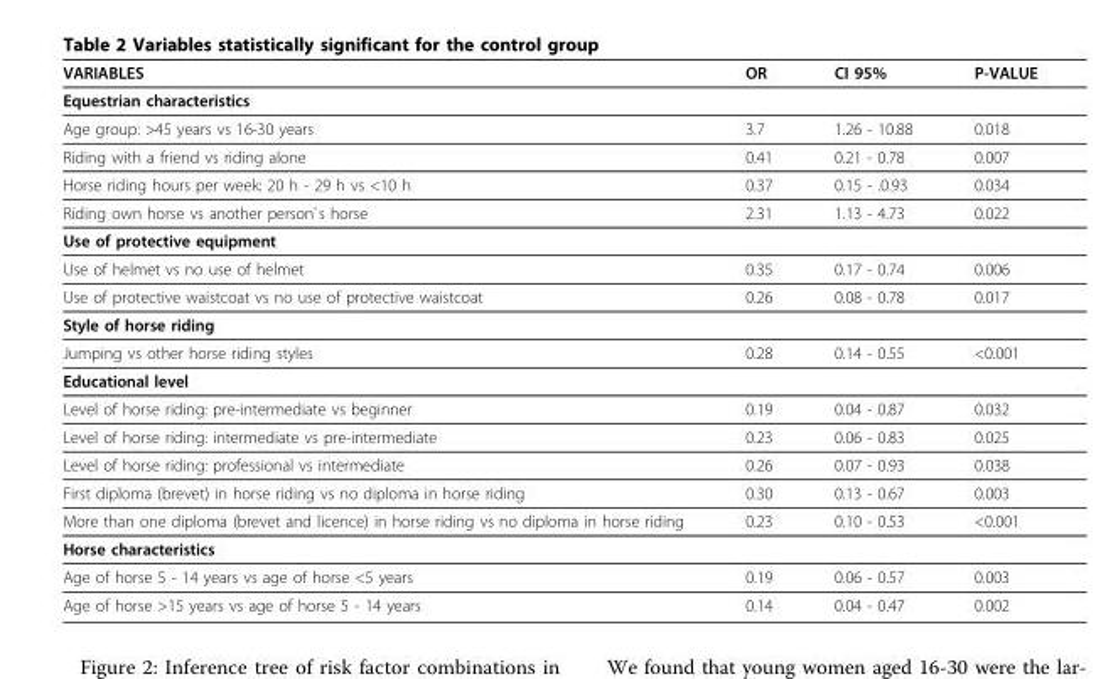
<table><thead><tr><td>VARIABLES</td><td>OR</td><td>CI 95%</td><td>P-VALUE</td></tr></thead><tbody><tr><td colspan="4">Equestrian characteristics</td></tr><tr><td>Age group: &gt;45 years vs 16-30 years</td><td>3.7</td><td>1.26 - 10.88</td><td>0.018</td></tr><tr><td>Riding with a friend vs riding alone</td><td>0.41</td><td>0.21 - 0.78</td><td>0.007</td></tr><tr><td>Horse riding hours per week: 20 h - 29 h vs &lt;10 h</td><td>0.37</td><td>0.15 - .0.93</td><td>0.034</td></tr><tr><td>Riding own horse vs another person`s horse</td><td>2.31</td><td>1.13 - 4.73</td><td>0.022</td></tr><tr><td colspan="4">Use of protective equipment</td></tr><tr><td>Use of helmet vs no use of helmet</td><td>0.35</td><td>0.17 - 0.74</td><td>0.006</td></tr><tr><td>Use of protective waistcoat vs no use of protective waistcoat</td><td>0.26</td><td>0.08 - 0.78</td><td>0.017</td></tr><tr><td colspan="4">Style of horse riding</td></tr><tr><td>Jumping vs other horse riding styles</td><td>0.28</td><td>0.14 - 0.55</td><td>&lt;0.001</td></tr><tr><td colspan="4">Educational level</td></tr><tr><td>Level of horse riding: pre-intermediate vs beginner</td><td>0.19</td><td>0.04 - 0.87</td><td>0.032</td></tr><tr><td>Level of horse riding: intermediate vs pre-intermediate</td><td>0.23</td><td>0.06 - 0.83</td><td>0.025</td></tr><tr><td>Level of horse riding: professional vs intermediate</td><td>0.26</td><td>0.07 - 0.93</td><td>0.038</td></tr><tr><td>First diploma (brevet) in horse riding vs no diploma in horse riding</td><td>0.30</td><td>0.13 - 0.67</td><td>0.003</td></tr><tr><td>More than one diploma (brevet and licence) in horse riding vs no diploma in horse riding</td><td>0.23</td><td>0.10 - 0.53</td><td>&lt;0.001</td></tr><tr><td colspan="4">Horse characteristics</td></tr><tr><td>Age of horse 5 - 14 years vs age of horse &lt;5 years</td><td>0.19</td><td>0.06 - 0.57</td><td>0.003</td></tr><tr><td>Age of horse &gt;15 years vs age of horse 5 - 14 years</td><td>0.14</td><td>0.04 - 0.47</td><td>0.002</td></tr></tbody></table>